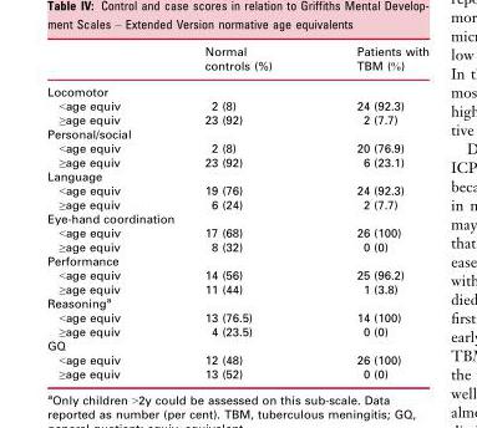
<table><thead><tr><td></td><td>Normal controls (%)</td><td>Patients with TBM (%)</td></tr></thead><tbody><tr><td colspan="3">Locomotor</td></tr><tr><td>&lt;age equiv</td><td>2 (8)</td><td>24 (92.3)</td></tr><tr><td>≥age equiv</td><td>23 (92)</td><td>2 (7.7)</td></tr><tr><td colspan="3">Personal/social</td></tr><tr><td>&lt;age equiv</td><td>2 (8)</td><td>20 (76.9)</td></tr><tr><td>≥age equiv</td><td>23 (92)</td><td>6 (23.1)</td></tr><tr><td colspan="3">Language</td></tr><tr><td>&lt;age equiv</td><td>19 (76)</td><td>24 (92.3)</td></tr><tr><td>≥age equiv</td><td>6 (24)</td><td>2 (7.7)</td></tr><tr><td colspan="3">Eye-hand coordination</td></tr><tr><td>&lt;age equiv</td><td>17 (68)</td><td>26 (100)</td></tr><tr><td>≥age equiv</td><td>8 (32)</td><td>0 (0)</td></tr><tr><td colspan="3">Performance</td></tr><tr><td>&lt;age equiv</td><td>14 (56)</td><td>25 (96.2)</td></tr><tr><td>≥age equiv</td><td>11 (44)</td><td>1 (3.8)</td></tr><tr><td colspan="3">Reasoning<sup>a</sup></td></tr><tr><td>&lt;age equiv</td><td>13 (76.5)</td><td>14 (100)</td></tr><tr><td>≥age equiv</td><td>4 (23.5)</td><td>0 (0)</td></tr><tr><td colspan="3">GQ</td></tr><tr><td>&lt;age equiv</td><td>12 (48)</td><td>26 (100)</td></tr><tr><td>≥age equiv</td><td>13 (52)</td><td>0 (0)</td></tr></tbody></table>